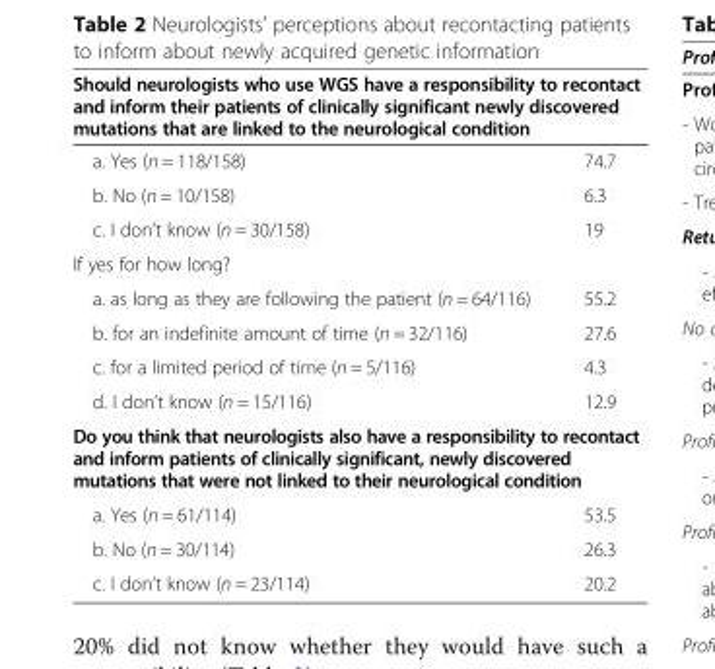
<table><thead><tr><td colspan="2">Should neurologists who use WGS have a responsibility to recontact and inform their patients of clinically significant newly discovered mutations that are linked to the neurological condition</td></tr><tr><td>a. Yes (n = 118/158)</td><td>74.7</td></tr></thead><tbody><tr><td>b. No (n = 10/158)</td><td>6.3</td></tr><tr><td>c. I don’t know (n = 30/158)</td><td>19</td></tr><tr><td colspan="2">If yes for how long?</td></tr><tr><td>a. as long as they are following the patient (n = 64/116)</td><td>55.2</td></tr><tr><td>b. for an indefinite amount of time (n = 32/116)</td><td>27.6</td></tr><tr><td>c. for a limited period of time (n = 5/116)</td><td>4.3</td></tr><tr><td>d. I don’t know (n = 15/116)</td><td>12.9</td></tr><tr><td colspan="2">Do you think that neurologists also have a responsibility to recontact and inform patients of clinically significant, newly discovered mutations that were not linked to their neurological condition</td></tr><tr><td>a. Yes (n = 61/114)</td><td>53.5</td></tr><tr><td>b. No (n = 30/114)</td><td>26.3</td></tr><tr><td>c. I don’t know (n = 23/114)</td><td>20.2</td></tr></tbody></table>